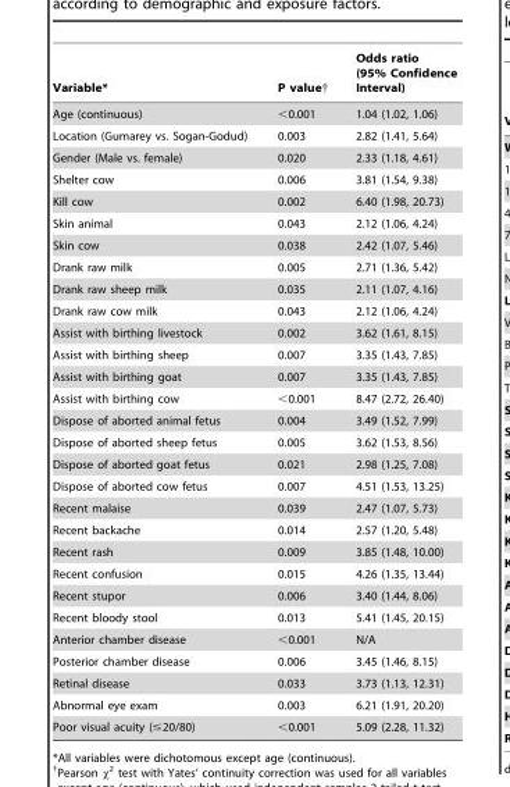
<table><thead><tr><td>Variable*</td><td>P value†</td><td>Odds ratio (95% Confidence Interval)</td></tr></thead><tbody><tr><td>Age (continuous)</td><td>&lt;0.001</td><td>1.04 (1.02, 1.06)</td></tr><tr><td>Location (Gumarey vs. Sogan-Godud)</td><td>0.003</td><td>2.82 (1.41, 5.64)</td></tr><tr><td>Gender (Male vs. female)</td><td>0.020</td><td>2.33 (1.18, 4.61)</td></tr><tr><td>Shelter cow</td><td>0.006</td><td>3.81 (1.54, 9.38)</td></tr><tr><td>Kill cow</td><td>0.002</td><td>6.40 (1.98, 20.73)</td></tr><tr><td>Skin animal</td><td>0.043</td><td>2.12 (1.06, 4.24)</td></tr><tr><td>Skin cow</td><td>0.038</td><td>2.42 (1.07, 5.46)</td></tr><tr><td>Drank raw milk</td><td>0.005</td><td>2.71 (1.36, 5.42)</td></tr><tr><td>Drank raw sheep milk</td><td>0.035</td><td>2.11 (1.07, 4.16)</td></tr><tr><td>Drank raw cow milk</td><td>0.043</td><td>2.12 (1.06, 4.24)</td></tr><tr><td>Assist with birthing livestock</td><td>0.002</td><td>3.62 (1.61, 8.15)</td></tr><tr><td>Assist with birthing sheep</td><td>0.007</td><td>3.35 (1.43, 7.85)</td></tr><tr><td>Assist with birthing goat</td><td>0.007</td><td>3.35 (1.43, 7.85)</td></tr><tr><td>Assist with birthing cow</td><td>&lt;0.001</td><td>8.47 (2.72, 26.40)</td></tr><tr><td>Dispose of aborted animal fetus</td><td>0.004</td><td>3.49 (1.52, 7.99)</td></tr><tr><td>Dispose of aborted sheep fetus</td><td>0.005</td><td>3.62 (1.53, 8.56)</td></tr><tr><td>Dispose of aborted goat fetus</td><td>0.021</td><td>2.98 (1.25, 7.08)</td></tr><tr><td>Dispose of aborted cow fetus</td><td>0.007</td><td>4.51 (1.53, 13.25)</td></tr><tr><td>Recent malaise</td><td>0.039</td><td>2.47 (1.07, 5.73)</td></tr><tr><td>Recent backache</td><td>0.014</td><td>2.57 (1.20, 5.48)</td></tr><tr><td>Recent rash</td><td>0.009</td><td>3.85 (1.48, 10.00)</td></tr><tr><td>Recent confusion</td><td>0.015</td><td>4.26 (1.35, 13.44)</td></tr><tr><td>Recent stupor</td><td>0.006</td><td>3.40 (1.44, 8.06)</td></tr><tr><td>Recent bloody stool</td><td>0.013</td><td>5.41 (1.45, 20.15)</td></tr><tr><td>Anterior chamber disease</td><td>&lt;0.001</td><td>N/A</td></tr><tr><td>Posterior chamber disease</td><td>0.006</td><td>3.45 (1.46, 8.15)</td></tr><tr><td>Retinal disease</td><td>0.033</td><td>3.73 (1.13, 12.31)</td></tr><tr><td>Abnormal eye exam</td><td>0.003</td><td>6.21 (1.91, 20.20)</td></tr><tr><td>Poor visual acuity (≤20/80)</td><td>&lt;0.001</td><td>5.09 (2.28, 11.32)</td></tr></tbody></table>